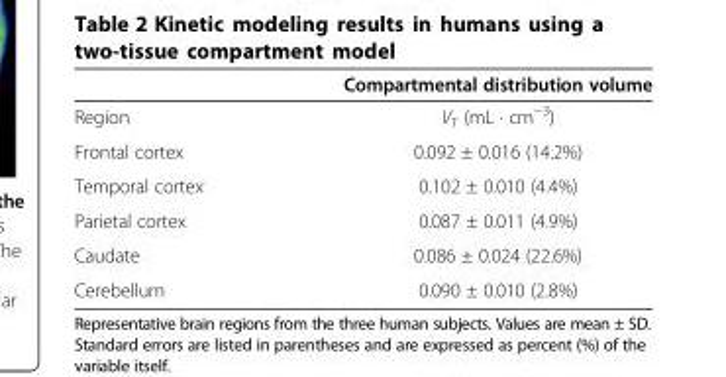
<table><thead><tr><td></td><td>Compartmental distribution volume</td></tr></thead><tbody><tr><td>Region</td><td>V<sub>T</sub> (mL · cm<sup>−3</sup>)</td></tr><tr><td>Frontal cortex</td><td>0.092 ± 0.016 (14.2%)</td></tr><tr><td>Temporal cortex</td><td>0.102 ± 0.010 (4.4%)</td></tr><tr><td>Parietal cortex</td><td>0.087 ± 0.011 (4.9%)</td></tr><tr><td>Caudate</td><td>0.086 ± 0.024 (22.6%)</td></tr><tr><td>Cerebellum</td><td>0.090 ± 0.010 (2.8%)</td></tr></tbody></table>